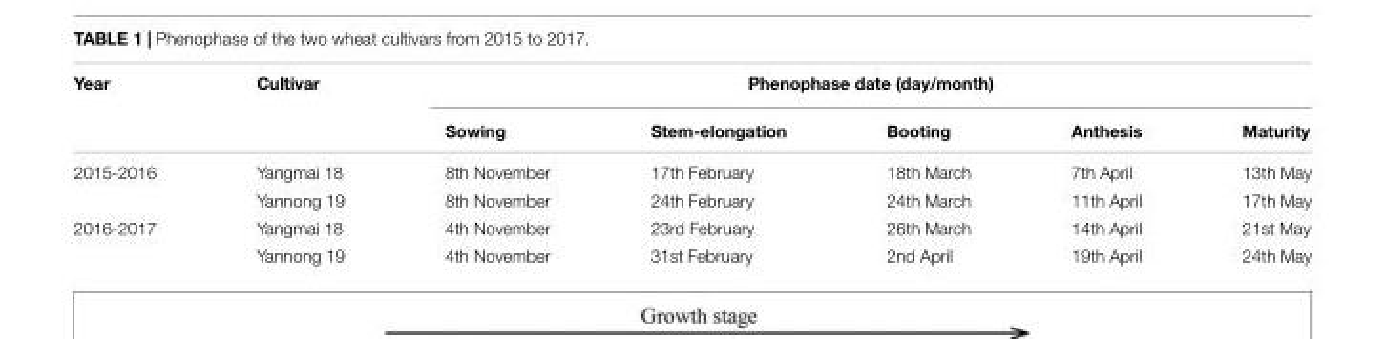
<table><thead><tr><td rowspan="2">Year</td><td rowspan="2">Cultivar</td><td colspan="5">Phenophase date (day/month)</td></tr><tr><td>Sowing</td><td>Stem-elongation</td><td>Booting</td><td>Anthesis</td><td>Maturity</td></tr></thead><tbody><tr><td rowspan="2">2015-2016</td><td>Yangmai 18</td><td>8th November</td><td>17th February</td><td>18th March</td><td>7th April</td><td>13th May</td></tr><tr><td>Yannong 19</td><td>8th November</td><td>24th February</td><td>24th March</td><td>11th April</td><td>17th May</td></tr><tr><td rowspan="2">2016-2017</td><td>Yangmai 18</td><td>4th November</td><td>23rd February</td><td>26th March</td><td>14th April</td><td>21st May</td></tr><tr><td>Yannong 19</td><td>4th November</td><td>31st February</td><td>2nd April</td><td>19th April</td><td>24th May</td></tr></tbody></table>